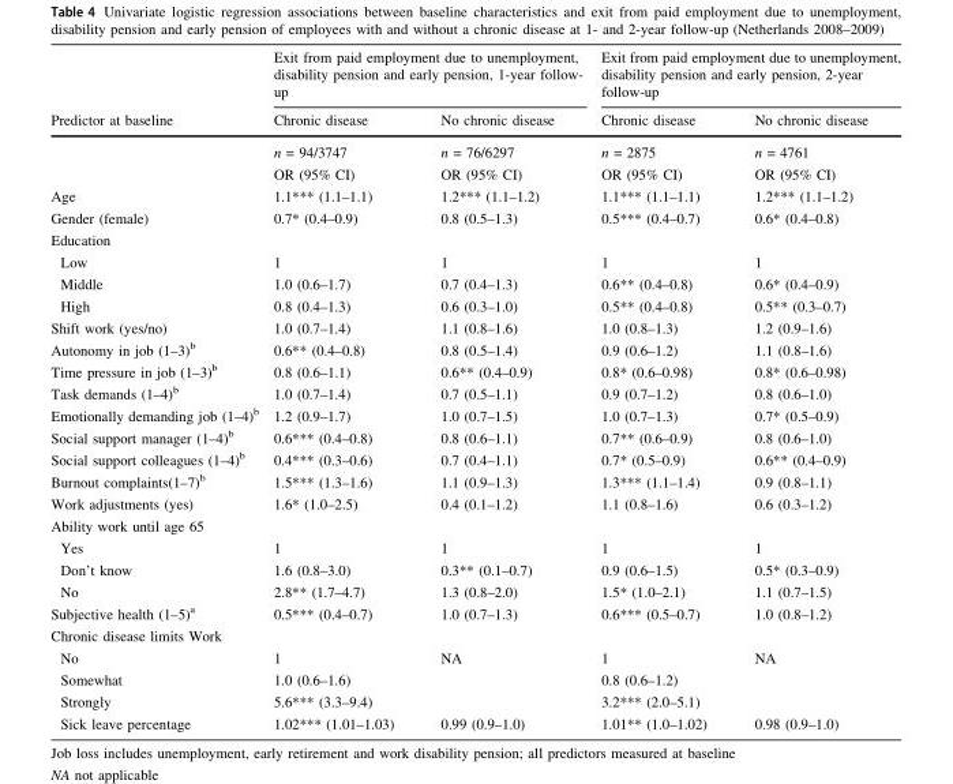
<table><thead><tr><td rowspan="2">Predictor at baseline</td><td colspan="2">Exit from paid employment due to unemployment, disability pension and early pension, 1-year follow- up</td><td colspan="2">Exit from paid employment due to unemployment, disability pension and early pension, 2-year follow-up</td></tr><tr><td>Chronic disease</td><td>No chronic disease</td><td>Chronic disease</td><td>No chronic disease</td></tr></thead><tbody><tr><td></td><td>n = 94/3747 OR (95% CI)</td><td>n = 76/6297 OR (95% CI)</td><td>n = 2875 OR (95% CI)</td><td>n = 4761 OR (95% CI)</td></tr><tr><td>Age</td><td>1.1*** (1.1–1.1)</td><td>1.2*** (1.1–1.2)</td><td>1.1*** (1.1–1.1)</td><td>1.2*** (1.1–1.2)</td></tr><tr><td>Gender (female)</td><td>0.7* (0.4–0.9)</td><td>0.8 (0.5–1.3)</td><td>0.5*** (0.4–0.7)</td><td>0.6* (0.4–0.8)</td></tr><tr><td colspan="5">Education</td></tr><tr><td>Low</td><td>1</td><td>1</td><td>1</td><td>1</td></tr><tr><td>Middle</td><td>1.0 (0.6–1.7)</td><td>0.7 (0.4–1.3)</td><td>0.6** (0.4–0.8)</td><td>0.6* (0.4–0.9)</td></tr><tr><td>High</td><td>0.8 (0.4–1.3)</td><td>0.6 (0.3–1.0)</td><td>0.5** (0.4–0.8)</td><td>0.5** (0.3–0.7)</td></tr><tr><td>Shift work (yes/no)</td><td>1.0 (0.7–1.4)</td><td>1.1 (0.8–1.6)</td><td>1.0 (0.8–1.3)</td><td>1.2 (0.9–1.6)</td></tr><tr><td>Autonomy in job (1–3)<sup>b</sup></td><td>0.6** (0.4–0.8)</td><td>0.8 (0.5–1.4)</td><td>0.9 (0.6–1.2)</td><td>1.1 (0.8–1.6)</td></tr><tr><td>Time pressure in job (1–3)<sup>b</sup></td><td>0.8 (0.6–1.1)</td><td>0.6** (0.4–0.9)</td><td>0.8* (0.6–0.98)</td><td>0.8* (0.6–0.98)</td></tr><tr><td>Task demands (1–4)<sup>b</sup></td><td>1.0 (0.7–1.4)</td><td>0.7 (0.5–1.1)</td><td>0.9 (0.7–1.2)</td><td>0.8 (0.6–1.0)</td></tr><tr><td>Emotionally demanding job (1–4)<sup>b</sup></td><td>1.2 (0.9–1.7)</td><td>1.0 (0.7–1.5)</td><td>1.0 (0.7–1.3)</td><td>0.7* (0.5–0.9)</td></tr><tr><td>Social support manager (1–4)<sup>b</sup></td><td>0.6*** (0.4–0.8)</td><td>0.8 (0.6–1.1)</td><td>0.7** (0.6–0.9)</td><td>0.8 (0.6–1.0)</td></tr><tr><td>Social support colleagues (1–4)<sup>b</sup></td><td>0.4*** (0.3–0.6)</td><td>0.7 (0.4–1.1)</td><td>0.7* (0.5–0.9)</td><td>0.6** (0.4–0.9)</td></tr><tr><td>Burnout complaints(1–7)<sup>b</sup></td><td>1.5*** (1.3–1.6)</td><td>1.1 (0.9–1.3)</td><td>1.3*** (1.1–1.4)</td><td>0.9 (0.8–1.1)</td></tr><tr><td>Work adjustments (yes)</td><td>1.6* (1.0–2.5)</td><td>0.4 (0.1–1.2)</td><td>1.1 (0.8–1.6)</td><td>0.6 (0.3–1.2)</td></tr><tr><td colspan="5">Ability work until age 65</td></tr><tr><td>Yes</td><td>1</td><td>1</td><td>1</td><td>1</td></tr><tr><td>Don’t know</td><td>1.6 (0.8–3.0)</td><td>0.3** (0.1–0.7)</td><td>0.9 (0.6–1.5)</td><td>0.5* (0.3–0.9)</td></tr><tr><td>No</td><td>2.8** (1.7–4.7)</td><td>1.3 (0.8–2.0)</td><td>1.5* (1.0–2.1)</td><td>1.1 (0.7–1.5)</td></tr><tr><td>Subjective health (1–5)<sup>a</sup></td><td>0.5*** (0.4–0.7)</td><td>1.0 (0.7–1.3)</td><td>0.6*** (0.5–0.7)</td><td>1.0 (0.8–1.2)</td></tr><tr><td colspan="5">Chronic disease limits Work</td></tr><tr><td>No</td><td>1</td><td>NA</td><td>1</td><td>NA</td></tr><tr><td>Somewhat</td><td>1.0 (0.6–1.6)</td><td></td><td>0.8 (0.6–1.2)</td><td></td></tr><tr><td>Strongly</td><td>5.6*** (3.3–9.4)</td><td></td><td>3.2*** (2.0–5.1)</td><td></td></tr><tr><td>Sick leave percentage</td><td>1.02*** (1.01–1.03)</td><td>0.99 (0.9–1.0)</td><td>1.01** (1.0–1.02)</td><td>0.98 (0.9–1.0)</td></tr></tbody></table>